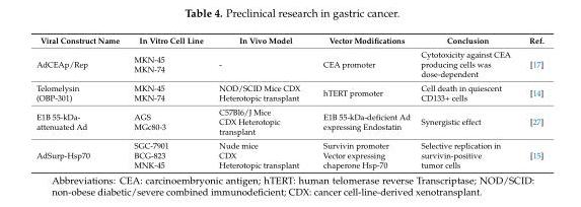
<table><thead><tr><td>Viral Construct Name</td><td>In Vitro Cell Line</td><td>In Vivo Model</td><td>Vector Modifications</td><td>Conclusion</td><td>Ref.</td></tr></thead><tbody><tr><td>AdCEAp/Rep</td><td>MKN-45 MKN-74</td><td>-</td><td>CEA promoter</td><td>Cytotoxicity against CEA producing cells was dose-dependent</td><td>[17]</td></tr><tr><td>Telomelysin (OBP-301)</td><td>MKN-45 MKN-74</td><td>NOD/SCID Mice CDX Heterotopic transplant</td><td>hTERT promoter</td><td>Cell death in quiescent CD133+ cells</td><td>[14]</td></tr><tr><td>E1B 55-kDa- attenuated Ad</td><td>AGS MGc80-3</td><td>C57Bl6/J Mice CDX Heterotopic transplant</td><td>E1B 55-kDa-deficient Ad expressing Endostatin</td><td>Synergistic effect</td><td>[27]</td></tr><tr><td>AdSurp-Hsp70</td><td>SGC-7901 BCG-823 MNK-45</td><td>Nude mice CDX Heterotopic transplant</td><td>Survivin promoter Vector expressing chaperone Hsp-70</td><td>Selective replication in survivin-positive tumor cells</td><td>[15]</td></tr></tbody></table>